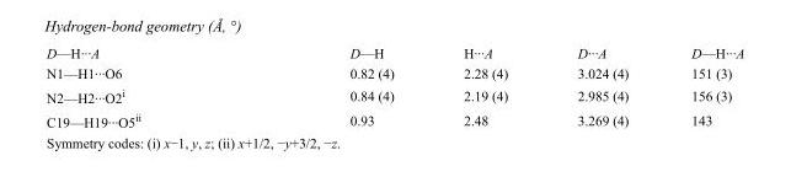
<table><tbody><tr><td>D—H···A</td><td>D—H</td><td>H···A</td><td>D···A</td><td>D—H···A</td></tr><tr><td>N1—H1···O6</td><td>0.82 (4)</td><td>2.28 (4)</td><td>3.024 (4)</td><td>151 (3)</td></tr><tr><td>N2—H2···O2<sup>i</sup></td><td>0.84 (4)</td><td>2.19 (4)</td><td>2.985 (4)</td><td>156 (3)</td></tr><tr><td>C19—H19···O5<sup>ii</sup></td><td>0.93</td><td>2.48</td><td>3.269 (4)</td><td>143</td></tr></tbody></table>